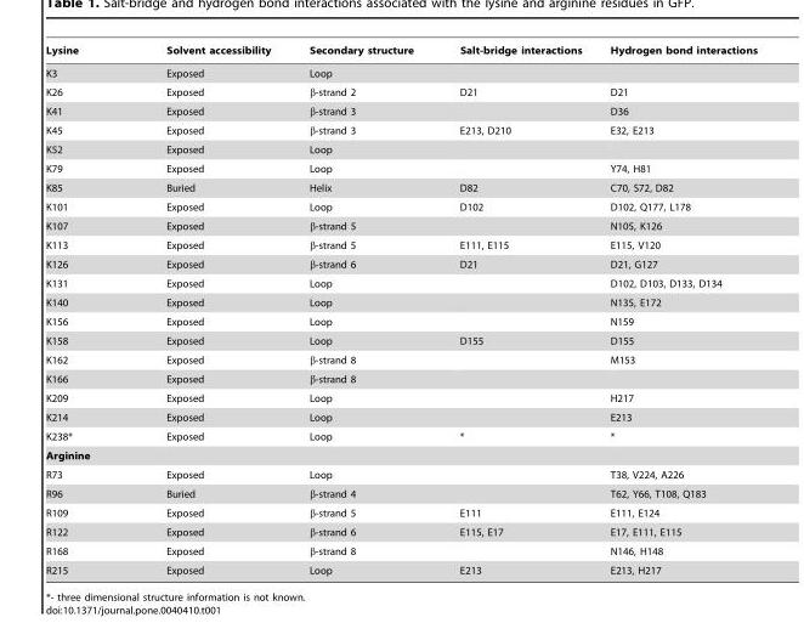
<table><thead><tr><td>Lysine</td><td>Solvent accessibility</td><td>Secondary structure</td><td>Salt-bridge interactions</td><td>Hydrogen bond interactions</td></tr></thead><tbody><tr><td>K3</td><td>Exposed</td><td>Loop</td><td></td><td></td></tr><tr><td>K26</td><td>Exposed</td><td>β-strand 2</td><td>D21</td><td>D21</td></tr><tr><td>K41</td><td>Exposed</td><td>β-strand 3</td><td></td><td>D36</td></tr><tr><td>K45</td><td>Exposed</td><td>β-strand 3</td><td>E213, D210</td><td>E32, E213</td></tr><tr><td>K52</td><td>Exposed</td><td>Loop</td><td></td><td></td></tr><tr><td>K79</td><td>Exposed</td><td>Loop</td><td></td><td>Y74, H81</td></tr><tr><td>K85</td><td>Buried</td><td>Helix</td><td>D82</td><td>C70, S72, D82</td></tr><tr><td>K101</td><td>Exposed</td><td>Loop</td><td>D102</td><td>D102, Q177, L178</td></tr><tr><td>K107</td><td>Exposed</td><td>β-strand 5</td><td></td><td>N105, K126</td></tr><tr><td>K113</td><td>Exposed</td><td>β-strand 5</td><td>E111, E115</td><td>E115, V120</td></tr><tr><td>K126</td><td>Exposed</td><td>β-strand 6</td><td>D21</td><td>D21, G127</td></tr><tr><td>K131</td><td>Exposed</td><td>Loop</td><td></td><td>D102, D103, D133, D134</td></tr><tr><td>K140</td><td>Exposed</td><td>Loop</td><td></td><td>N135, E172</td></tr><tr><td>K156</td><td>Exposed</td><td>Loop</td><td></td><td>N159</td></tr><tr><td>K158</td><td>Exposed</td><td>Loop</td><td>D155</td><td>D155</td></tr><tr><td>K162</td><td>Exposed</td><td>β-strand 8</td><td></td><td>M153</td></tr><tr><td>K166</td><td>Exposed</td><td>β-strand 8</td><td></td><td></td></tr><tr><td>K209</td><td>Exposed</td><td>Loop</td><td></td><td>H217</td></tr><tr><td>K214</td><td>Exposed</td><td>Loop</td><td></td><td>E213</td></tr><tr><td>K238*</td><td>Exposed</td><td>Loop</td><td>*</td><td>*</td></tr><tr><td colspan="5">Arginine</td></tr><tr><td>R73</td><td>Exposed</td><td>Loop</td><td></td><td>T38, V224, A226</td></tr><tr><td>R96</td><td>Buried</td><td>β-strand 4</td><td></td><td>T62, Y66, T108, Q183</td></tr><tr><td>R109</td><td>Exposed</td><td>β-strand 5</td><td>E111</td><td>E111, E124</td></tr><tr><td>R122</td><td>Exposed</td><td>β-strand 6</td><td>E115, E17</td><td>E17, E111, E115</td></tr><tr><td>R168</td><td>Exposed</td><td>β-strand 8</td><td></td><td>N146, H148</td></tr><tr><td>R215</td><td>Exposed</td><td>Loop</td><td>E213</td><td>E213, H217</td></tr></tbody></table>